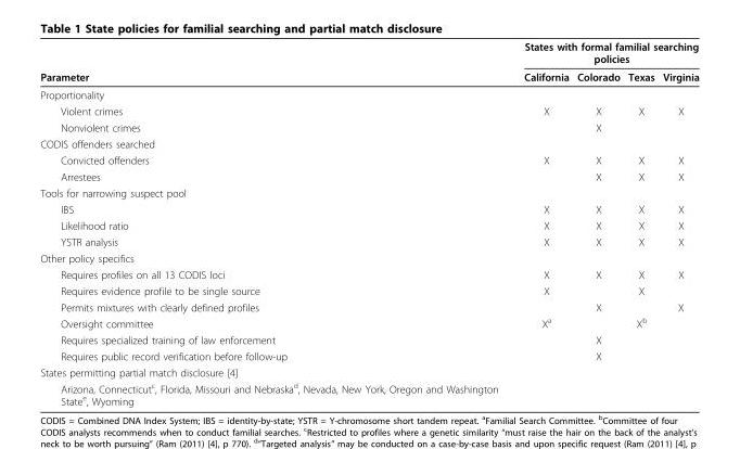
<table><thead><tr><td rowspan="2">Parameter</td><td colspan="4">States with formal familial searching policies</td></tr><tr><td>California</td><td>Colorado</td><td>Texas</td><td>Virginia</td></tr></thead><tbody><tr><td colspan="5">Proportionality</td></tr><tr><td>Violent crimes</td><td>X</td><td>X</td><td>X</td><td>X</td></tr><tr><td>Nonviolent crimes</td><td></td><td>X</td><td></td><td></td></tr><tr><td colspan="5">CODIS offenders searched</td></tr><tr><td>Convicted offenders</td><td>X</td><td>X</td><td>X</td><td>X</td></tr><tr><td>Arrestees</td><td></td><td>X</td><td>X</td><td>X</td></tr><tr><td colspan="5">Tools for narrowing suspect pool</td></tr><tr><td>IBS</td><td>X</td><td>X</td><td>X</td><td>X</td></tr><tr><td>Likelihood ratio</td><td>X</td><td>X</td><td>X</td><td>X</td></tr><tr><td>YSTR analysis</td><td>X</td><td>X</td><td>X</td><td>X</td></tr><tr><td colspan="5">Other policy specifics</td></tr><tr><td>Requires profiles on all 13 CODIS loci</td><td>X</td><td>X</td><td>X</td><td>X</td></tr><tr><td>Requires evidence profile to be single source</td><td>X</td><td></td><td>X</td><td></td></tr><tr><td>Permits mixtures with clearly defined profiles</td><td></td><td>X</td><td></td><td>X</td></tr><tr><td>Oversight committee</td><td>X<sup>a</sup></td><td></td><td>X<sup>b</sup></td><td></td></tr><tr><td>Requires specialized training of law enforcement</td><td></td><td>X</td><td></td><td></td></tr><tr><td>Requires public record verification before follow-up</td><td></td><td>X</td><td></td><td></td></tr><tr><td colspan="5">States permitting partial match disclosure [4]</td></tr><tr><td>Arizona, Connecticut<sup>c</sup>, Florida, Missouri and Nebraska<sup>d</sup>, Nevada, New York, Oregon and Washington State<sup>e</sup>, Wyoming</td><td></td><td></td><td></td><td></td></tr></tbody></table>